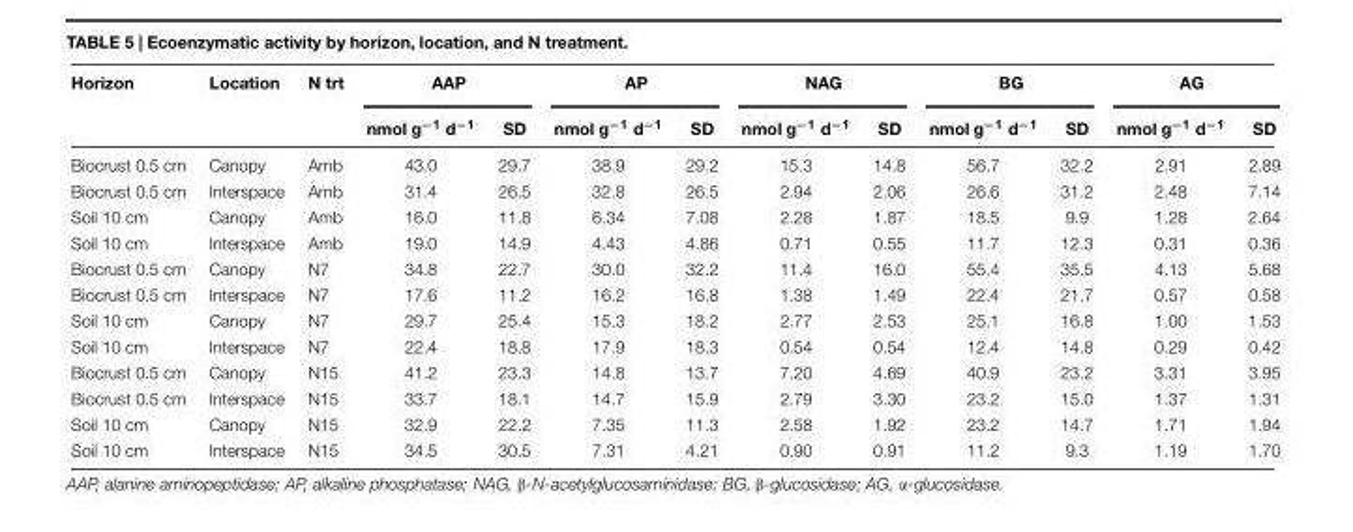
<table><thead><tr><td rowspan="2">Horizon</td><td rowspan="2">Location</td><td rowspan="2">N trt</td><td colspan="2">AAP</td><td colspan="2">AP</td><td colspan="2">NAG</td><td colspan="2">BG</td><td colspan="2">AG</td></tr><tr><td>nmol g<sup>−1</sup> d<sup>−1</sup></td><td>SD</td><td>nmol g<sup>−1</sup> d<sup>−1</sup></td><td>SD</td><td>nmol g<sup>−1</sup> d<sup>−1</sup></td><td>SD</td><td>nmol g<sup>−1</sup> d<sup>−1</sup></td><td>SD</td><td>nmol g<sup>−1</sup> d<sup>−1</sup></td><td>SD</td></tr></thead><tbody><tr><td>Biocrust 0.5 cm</td><td>Canopy</td><td>Amb</td><td>43.0</td><td>29.7</td><td>38.9</td><td>29.2</td><td>15.3</td><td>14.8</td><td>56.7</td><td>32.2</td><td>2.91</td><td>2.89</td></tr><tr><td>Biocrust 0.5 cm</td><td>Interspace</td><td>Amb</td><td>31.4</td><td>26.5</td><td>32.8</td><td>26.5</td><td>2.94</td><td>2.06</td><td>26.6</td><td>31.2</td><td>2.48</td><td>7.14</td></tr><tr><td>Soil 10 cm</td><td>Canopy</td><td>Amb</td><td>16.0</td><td>11.8</td><td>6.34</td><td>7.08</td><td>2.28</td><td>1.87</td><td>18.5</td><td>9.9</td><td>1.28</td><td>2.64</td></tr><tr><td>Soil 10 cm</td><td>Interspace</td><td>Amb</td><td>19.0</td><td>14.9</td><td>4.43</td><td>4.86</td><td>0.71</td><td>0.55</td><td>11.7</td><td>12.3</td><td>0.31</td><td>0.36</td></tr><tr><td>Biocrust 0.5 cm</td><td>Canopy</td><td>N7</td><td>34.8</td><td>22.7</td><td>30.0</td><td>32.2</td><td>11.4</td><td>16.0</td><td>55.4</td><td>35.5</td><td>4.13</td><td>5.68</td></tr><tr><td>Biocrust 0.5 cm</td><td>Interspace</td><td>N7</td><td>17.6</td><td>11.2</td><td>16.2</td><td>16.8</td><td>1.38</td><td>1.49</td><td>22.4</td><td>21.7</td><td>0.57</td><td>0.58</td></tr><tr><td>Soil 10 cm</td><td>Canopy</td><td>N7</td><td>29.7</td><td>25.4</td><td>15.3</td><td>18.2</td><td>2.77</td><td>2.53</td><td>25.1</td><td>16.8</td><td>1.00</td><td>1.53</td></tr><tr><td>Soil 10 cm</td><td>Interspace</td><td>N7</td><td>22.4</td><td>18.8</td><td>17.9</td><td>18.3</td><td>0.54</td><td>0.54</td><td>12.4</td><td>14.8</td><td>0.29</td><td>0.42</td></tr><tr><td>Biocrust 0.5 cm</td><td>Canopy</td><td>N15</td><td>41.2</td><td>23.3</td><td>14.8</td><td>13.7</td><td>7.20</td><td>4.69</td><td>40.9</td><td>23.2</td><td>3.31</td><td>3.95</td></tr><tr><td>Biocrust 0.5 cm</td><td>Interspace</td><td>N15</td><td>33.7</td><td>18.1</td><td>14.7</td><td>15.9</td><td>2.79</td><td>3.30</td><td>23.2</td><td>15.0</td><td>1.37</td><td>1.31</td></tr><tr><td>Soil 10 cm</td><td>Canopy</td><td>N15</td><td>32.9</td><td>22.2</td><td>7.35</td><td>11.3</td><td>2.58</td><td>1.92</td><td>23.2</td><td>14.7</td><td>1.71</td><td>1.94</td></tr><tr><td>Soil 10 cm</td><td>Interspace</td><td>N15</td><td>34.5</td><td>30.5</td><td>7.31</td><td>4.21</td><td>0.90</td><td>0.91</td><td>11.2</td><td>9.3</td><td>1.19</td><td>1.70</td></tr></tbody></table>